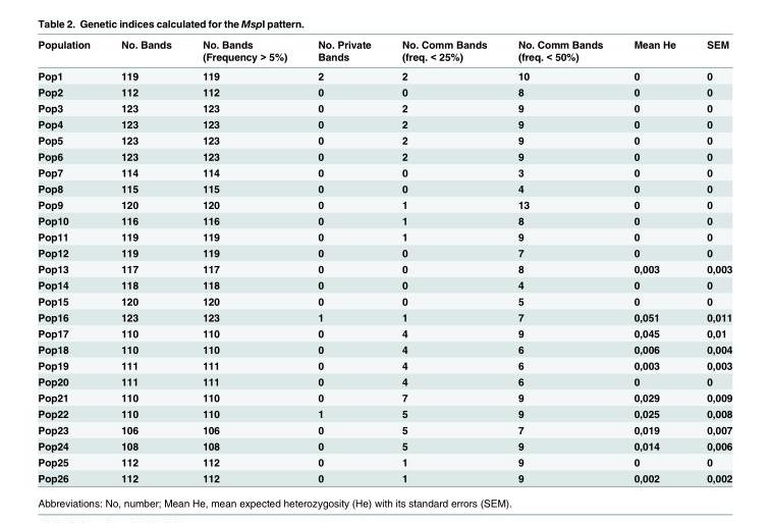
<table><thead><tr><td>Population</td><td>No. Bands</td><td>No. Bands (Frequency &gt; 5%)</td><td>No. Private Bands</td><td>No. Comm Bands (freq. &lt; 25%)</td><td>No. Comm Bands (freq. &lt; 50%)</td><td>Mean He</td><td>SEM</td></tr></thead><tbody><tr><td>Pop1</td><td>119</td><td>119</td><td>2</td><td>2</td><td>10</td><td>0</td><td>0</td></tr><tr><td>Pop2</td><td>112</td><td>112</td><td>0</td><td>0</td><td>8</td><td>0</td><td>0</td></tr><tr><td>Pop3</td><td>123</td><td>123</td><td>0</td><td>2</td><td>9</td><td>0</td><td>0</td></tr><tr><td>Pop4</td><td>123</td><td>123</td><td>0</td><td>2</td><td>9</td><td>0</td><td>0</td></tr><tr><td>Pop5</td><td>123</td><td>123</td><td>0</td><td>2</td><td>9</td><td>0</td><td>0</td></tr><tr><td>Pop6</td><td>123</td><td>123</td><td>0</td><td>2</td><td>9</td><td>0</td><td>0</td></tr><tr><td>Pop7</td><td>114</td><td>114</td><td>0</td><td>0</td><td>3</td><td>0</td><td>0</td></tr><tr><td>Pop8</td><td>115</td><td>115</td><td>0</td><td>0</td><td>4</td><td>0</td><td>0</td></tr><tr><td>Pop9</td><td>120</td><td>120</td><td>0</td><td>1</td><td>13</td><td>0</td><td>0</td></tr><tr><td>Pop10</td><td>116</td><td>116</td><td>0</td><td>1</td><td>8</td><td>0</td><td>0</td></tr><tr><td>Pop11</td><td>119</td><td>119</td><td>0</td><td>1</td><td>9</td><td>0</td><td>0</td></tr><tr><td>Pop12</td><td>119</td><td>119</td><td>0</td><td>0</td><td>7</td><td>0</td><td>0</td></tr><tr><td>Pop13</td><td>117</td><td>117</td><td>0</td><td>0</td><td>8</td><td>0,003</td><td>0,003</td></tr><tr><td>Pop14</td><td>118</td><td>118</td><td>0</td><td>0</td><td>4</td><td>0</td><td>0</td></tr><tr><td>Pop15</td><td>120</td><td>120</td><td>0</td><td>0</td><td>5</td><td>0</td><td>0</td></tr><tr><td>Pop16</td><td>123</td><td>123</td><td>1</td><td>1</td><td>7</td><td>0,051</td><td>0,011</td></tr><tr><td>Pop17</td><td>110</td><td>110</td><td>0</td><td>4</td><td>9</td><td>0,045</td><td>0,01</td></tr><tr><td>Pop18</td><td>110</td><td>110</td><td>0</td><td>4</td><td>6</td><td>0,006</td><td>0,004</td></tr><tr><td>Pop19</td><td>111</td><td>111</td><td>0</td><td>4</td><td>6</td><td>0,003</td><td>0,003</td></tr><tr><td>Pop20</td><td>111</td><td>111</td><td>0</td><td>4</td><td>6</td><td>0</td><td>0</td></tr><tr><td>Pop21</td><td>110</td><td>110</td><td>0</td><td>7</td><td>9</td><td>0,029</td><td>0,009</td></tr><tr><td>Pop22</td><td>110</td><td>110</td><td>1</td><td>5</td><td>9</td><td>0,025</td><td>0,008</td></tr><tr><td>Pop23</td><td>106</td><td>106</td><td>0</td><td>5</td><td>7</td><td>0,019</td><td>0,007</td></tr><tr><td>Pop24</td><td>108</td><td>108</td><td>0</td><td>5</td><td>9</td><td>0,014</td><td>0,006</td></tr><tr><td>Pop25</td><td>112</td><td>112</td><td>0</td><td>1</td><td>9</td><td>0</td><td>0</td></tr><tr><td>Pop26</td><td>112</td><td>112</td><td>0</td><td>1</td><td>9</td><td>0,002</td><td>0,002</td></tr></tbody></table>